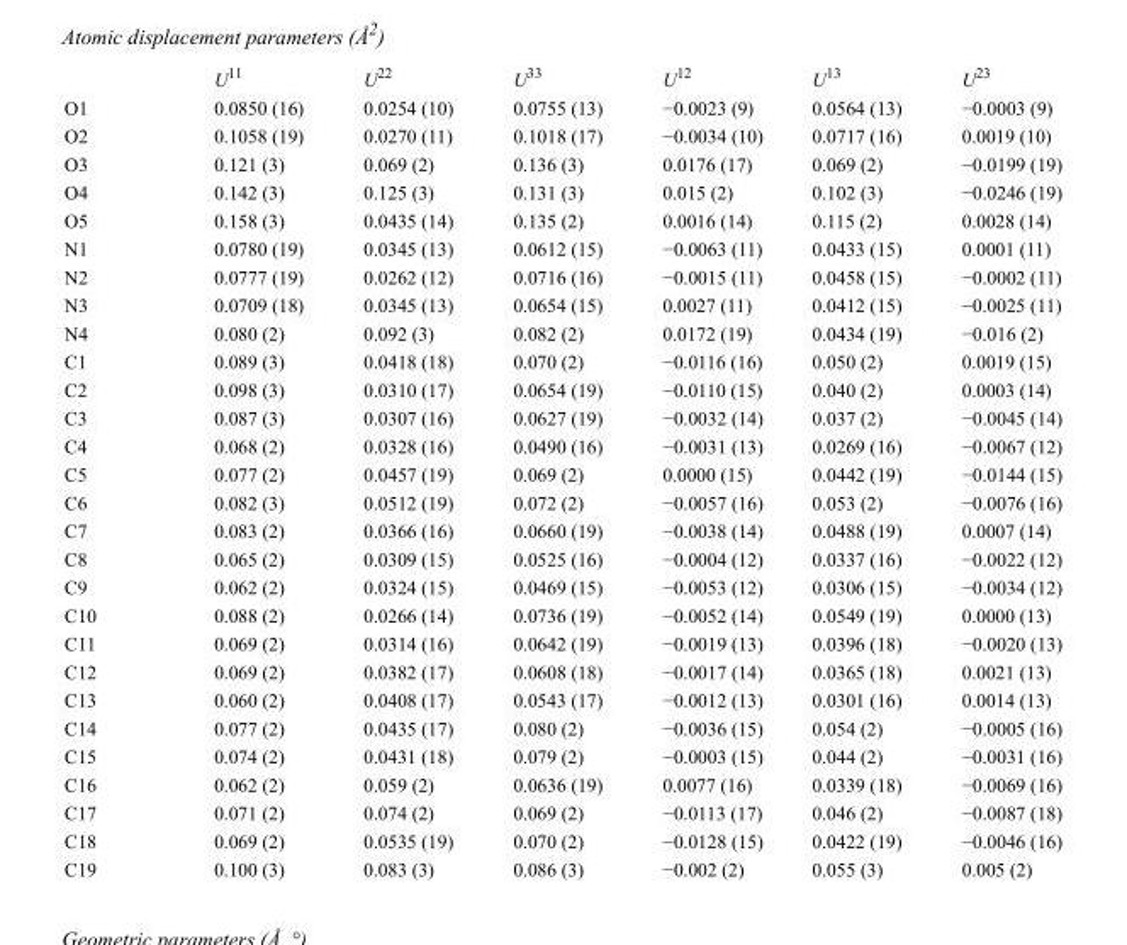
<table><thead><tr><td></td><td>U<sup>11</sup></td><td>U<sup>22</sup></td><td>U<sup>33</sup></td><td>U<sup>12</sup></td><td>U<sup>13</sup></td><td>U<sup>23</sup></td></tr></thead><tbody><tr><td>O1</td><td>0.0850 (16)</td><td>0.0254 (10)</td><td>0.0755 (13)</td><td>−0.0023 (9)</td><td>0.0564 (13)</td><td>−0.0003 (9)</td></tr><tr><td>O2</td><td>0.1058 (19)</td><td>0.0270 (11)</td><td>0.1018 (17)</td><td>−0.0034 (10)</td><td>0.0717 (16)</td><td>0.0019 (10)</td></tr><tr><td>O3</td><td>0.121 (3)</td><td>0.069 (2)</td><td>0.136 (3)</td><td>0.0176 (17)</td><td>0.069 (2)</td><td>−0.0199 (19)</td></tr><tr><td>O4</td><td>0.142 (3)</td><td>0.125 (3)</td><td>0.131 (3)</td><td>0.015 (2)</td><td>0.102 (3)</td><td>−0.0246 (19)</td></tr><tr><td>O5</td><td>0.158 (3)</td><td>0.0435 (14)</td><td>0.135 (2)</td><td>0.0016 (14)</td><td>0.115 (2)</td><td>0.0028 (14)</td></tr><tr><td>N1</td><td>0.0780 (19)</td><td>0.0345 (13)</td><td>0.0612 (15)</td><td>−0.0063 (11)</td><td>0.0433 (15)</td><td>0.0001 (11)</td></tr><tr><td>N2</td><td>0.0777 (19)</td><td>0.0262 (12)</td><td>0.0716 (16)</td><td>−0.0015 (11)</td><td>0.0458 (15)</td><td>−0.0002 (11)</td></tr><tr><td>N3</td><td>0.0709 (18)</td><td>0.0345 (13)</td><td>0.0654 (15)</td><td>0.0027 (11)</td><td>0.0412 (15)</td><td>−0.0025 (11)</td></tr><tr><td>N4</td><td>0.080 (2)</td><td>0.092 (3)</td><td>0.082 (2)</td><td>0.0172 (19)</td><td>0.0434 (19)</td><td>−0.016 (2)</td></tr><tr><td>C1</td><td>0.089 (3)</td><td>0.0418 (18)</td><td>0.070 (2)</td><td>−0.0116 (16)</td><td>0.050 (2)</td><td>0.0019 (15)</td></tr><tr><td>C2</td><td>0.098 (3)</td><td>0.0310 (17)</td><td>0.0654 (19)</td><td>−0.0110 (15)</td><td>0.040 (2)</td><td>0.0003 (14)</td></tr><tr><td>C3</td><td>0.087 (3)</td><td>0.0307 (16)</td><td>0.0627 (19)</td><td>−0.0032 (14)</td><td>0.037 (2)</td><td>−0.0045 (14)</td></tr><tr><td>C4</td><td>0.068 (2)</td><td>0.0328 (16)</td><td>0.0490 (16)</td><td>−0.0031 (13)</td><td>0.0269 (16)</td><td>−0.0067 (12)</td></tr><tr><td>C5</td><td>0.077 (2)</td><td>0.0457 (19)</td><td>0.069 (2)</td><td>0.0000 (15)</td><td>0.0442 (19)</td><td>−0.0144 (15)</td></tr><tr><td>C6</td><td>0.082 (3)</td><td>0.0512 (19)</td><td>0.072 (2)</td><td>−0.0057 (16)</td><td>0.053 (2)</td><td>−0.0076 (16)</td></tr><tr><td>C7</td><td>0.083 (2)</td><td>0.0366 (16)</td><td>0.0660 (19)</td><td>−0.0038 (14)</td><td>0.0488 (19)</td><td>0.0007 (14)</td></tr><tr><td>C8</td><td>0.065 (2)</td><td>0.0309 (15)</td><td>0.0525 (16)</td><td>−0.0004 (12)</td><td>0.0337 (16)</td><td>−0.0022 (12)</td></tr><tr><td>C9</td><td>0.062 (2)</td><td>0.0324 (15)</td><td>0.0469 (15)</td><td>−0.0053 (12)</td><td>0.0306 (15)</td><td>−0.0034 (12)</td></tr><tr><td>C10</td><td>0.088 (2)</td><td>0.0266 (14)</td><td>0.0736 (19)</td><td>−0.0052 (14)</td><td>0.0549 (19)</td><td>0.0000 (13)</td></tr><tr><td>C11</td><td>0.069 (2)</td><td>0.0314 (16)</td><td>0.0642 (19)</td><td>−0.0019 (13)</td><td>0.0396 (18)</td><td>−0.0020 (13)</td></tr><tr><td>C12</td><td>0.069 (2)</td><td>0.0382 (17)</td><td>0.0608 (18)</td><td>−0.0017 (14)</td><td>0.0365 (18)</td><td>0.0021 (13)</td></tr><tr><td>C13</td><td>0.060 (2)</td><td>0.0408 (17)</td><td>0.0543 (17)</td><td>−0.0012 (13)</td><td>0.0301 (16)</td><td>0.0014 (13)</td></tr><tr><td>C14</td><td>0.077 (2)</td><td>0.0435 (17)</td><td>0.080 (2)</td><td>−0.0036 (15)</td><td>0.054 (2)</td><td>−0.0005 (16)</td></tr><tr><td>C15</td><td>0.074 (2)</td><td>0.0431 (18)</td><td>0.079 (2)</td><td>−0.0003 (15)</td><td>0.044 (2)</td><td>−0.0031 (16)</td></tr><tr><td>C16</td><td>0.062 (2)</td><td>0.059 (2)</td><td>0.0636 (19)</td><td>0.0077 (16)</td><td>0.0339 (18)</td><td>−0.0069 (16)</td></tr><tr><td>C17</td><td>0.071 (2)</td><td>0.074 (2)</td><td>0.069 (2)</td><td>−0.0113 (17)</td><td>0.046 (2)</td><td>−0.0087 (18)</td></tr><tr><td>C18</td><td>0.069 (2)</td><td>0.0535 (19)</td><td>0.070 (2)</td><td>−0.0128 (15)</td><td>0.0422 (19)</td><td>−0.0046 (16)</td></tr><tr><td>C19</td><td>0.100 (3)</td><td>0.083 (3)</td><td>0.086 (3)</td><td>−0.002 (2)</td><td>0.055 (3)</td><td>0.005 (2)</td></tr></tbody></table>